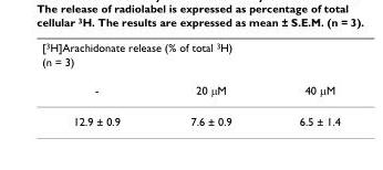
<table><thead><tr><td colspan="3">[<sup>3</sup>H]Arachidonate release (% of total <sup>3</sup>H)</td></tr><tr><td rowspan="2">(n = 3) -</td><td rowspan="2">20 µM</td><td rowspan="2">40 µM</td></tr><tr></tr></thead><tbody><tr><td>12.9 ± 0.9</td><td>7.6 ± 0.9</td><td>6.5 ± 1.4</td></tr></tbody></table>